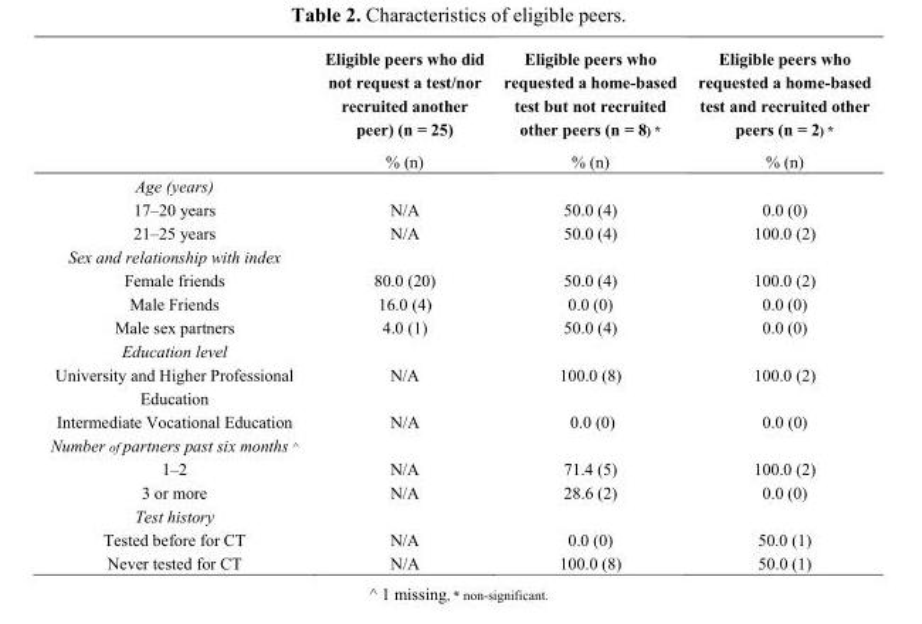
<table><thead><tr><td rowspan="2"></td><td rowspan="2">Eligible peers who did not request a test/nor recruited another peer) (n = 25) % (n)</td><td rowspan="2">Eligible peers who requested a home-based test but not recruited other peers (n = 8) * % (n)</td><td rowspan="2">Eligible peers who requested a home-based test and recruited other peers (n = 2) * % (n)</td></tr><tr></tr></thead><tbody><tr><td colspan="4">Age (years)</td></tr><tr><td>17–20 years</td><td>N/A</td><td>50.0 (4)</td><td>0.0 (0)</td></tr><tr><td>21–25 years</td><td>N/A</td><td>50.0 (4)</td><td>100.0 (2)</td></tr><tr><td colspan="4">Sex and relationship with index</td></tr><tr><td>Female friends</td><td>80.0 (20)</td><td>50.0 (4)</td><td>100.0 (2)</td></tr><tr><td>Male Friends</td><td>16.0 (4)</td><td>0.0 (0)</td><td>0.0 (0)</td></tr><tr><td>Male sex partners</td><td>4.0 (1)</td><td>50.0 (4)</td><td>0.0 (0)</td></tr><tr><td colspan="4">Education level</td></tr><tr><td>University and Higher Professional Education</td><td>N/A</td><td>100.0 (8)</td><td>100.0 (2)</td></tr><tr><td>Intermediate Vocational Education</td><td>N/A</td><td>0.0 (0)</td><td>0.0 (0)</td></tr><tr><td colspan="4">Number of partners past six months ^</td></tr><tr><td>1–2</td><td>N/A</td><td>71.4 (5)</td><td>100.0 (2)</td></tr><tr><td>3 or more</td><td>N/A</td><td>28.6 (2)</td><td>0.0 (0)</td></tr><tr><td colspan="4">Test history</td></tr><tr><td>Tested before for CT</td><td>N/A</td><td>0.0 (0)</td><td>50.0 (1)</td></tr><tr><td>Never tested for CT</td><td>N/A</td><td>100.0 (8)</td><td>50.0 (1)</td></tr></tbody></table>